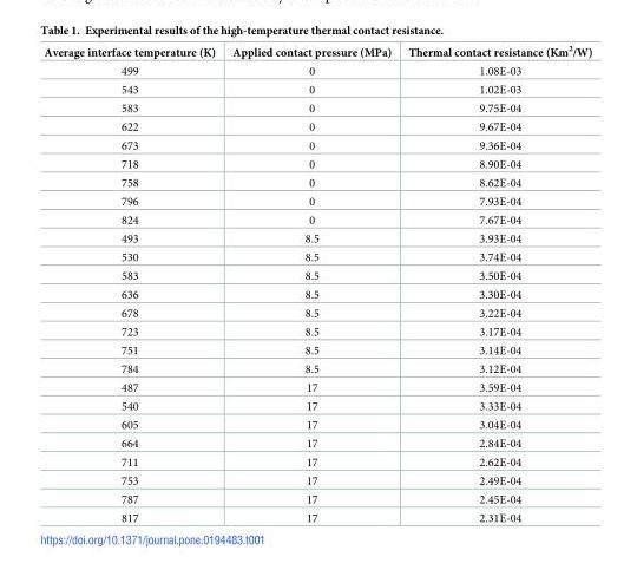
<table><thead><tr><td>Average interface temperature (K)</td><td>Applied contact pressure (MPa)</td><td>Thermal contact resistance (Km<sup>2</sup>/W)</td></tr></thead><tbody><tr><td>499</td><td>0</td><td>1.08E-03</td></tr><tr><td>543</td><td>0</td><td>1.02E-03</td></tr><tr><td>583</td><td>0</td><td>9.75E-04</td></tr><tr><td>622</td><td>0</td><td>9.67E-04</td></tr><tr><td>673</td><td>0</td><td>9.36E-04</td></tr><tr><td>718</td><td>0</td><td>8.90E-04</td></tr><tr><td>758</td><td>0</td><td>8.62E-04</td></tr><tr><td>796</td><td>0</td><td>7.93E-04</td></tr><tr><td>824</td><td>0</td><td>7.67E-04</td></tr><tr><td>493</td><td>8.5</td><td>3.93E-04</td></tr><tr><td>530</td><td>8.5</td><td>3.74E-04</td></tr><tr><td>583</td><td>8.5</td><td>3.50E-04</td></tr><tr><td>636</td><td>8.5</td><td>3.30E-04</td></tr><tr><td>678</td><td>8.5</td><td>3.22E-04</td></tr><tr><td>723</td><td>8.5</td><td>3.17E-04</td></tr><tr><td>751</td><td>8.5</td><td>3.14E-04</td></tr><tr><td>784</td><td>8.5</td><td>3.12E-04</td></tr><tr><td>487</td><td>17</td><td>3.59E-04</td></tr><tr><td>540</td><td>17</td><td>3.33E-04</td></tr><tr><td>605</td><td>17</td><td>3.04E-04</td></tr><tr><td>664</td><td>17</td><td>2.84E-04</td></tr><tr><td>711</td><td>17</td><td>2.62E-04</td></tr><tr><td>753</td><td>17</td><td>2.49E-04</td></tr><tr><td>787</td><td>17</td><td>2.45E-04</td></tr><tr><td>817</td><td>17</td><td>2.31E-04</td></tr></tbody></table>